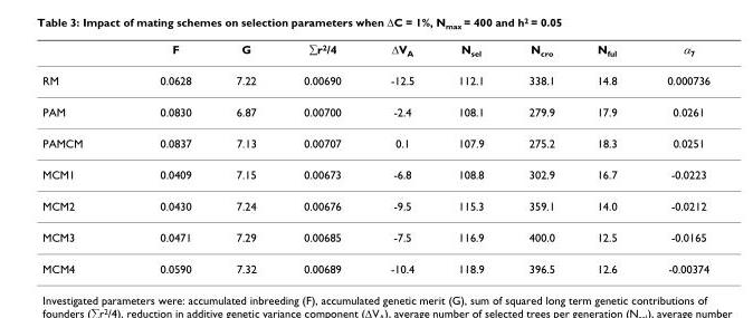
<table><thead><tr><td></td><td>F</td><td>G</td><td>∑r<sup>2</sup>/4</td><td>ΔV<sub>A</sub></td><td>N<sub>sel</sub></td><td>N<sub>cro</sub></td><td>N<sub>ful</sub></td><td>α<sub>7</sub></td></tr></thead><tbody><tr><td>RM</td><td>0.0628</td><td>7.22</td><td>0.00690</td><td>-12.5</td><td>112.1</td><td>338.1</td><td>14.8</td><td>0.000736</td></tr><tr><td>PAM</td><td>0.0830</td><td>6.87</td><td>0.00700</td><td>-2.4</td><td>108.1</td><td>279.9</td><td>17.9</td><td>0.0261</td></tr><tr><td>PAMCM</td><td>0.0837</td><td>7.13</td><td>0.00707</td><td>0.1</td><td>107.9</td><td>275.2</td><td>18.3</td><td>0.0251</td></tr><tr><td>MCM1</td><td>0.0409</td><td>7.15</td><td>0.00673</td><td>-6.8</td><td>108.8</td><td>302.9</td><td>16.7</td><td>-0.0223</td></tr><tr><td>MCM2</td><td>0.0430</td><td>7.24</td><td>0.00676</td><td>-9.5</td><td>115.3</td><td>359.1</td><td>14.0</td><td>-0.0212</td></tr><tr><td>MCM3</td><td>0.0471</td><td>7.29</td><td>0.00685</td><td>-7.5</td><td>116.9</td><td>400.0</td><td>12.5</td><td>-0.0165</td></tr><tr><td>MCM4</td><td>0.0590</td><td>7.32</td><td>0.00689</td><td>-10.4</td><td>118.9</td><td>396.5</td><td>12.6</td><td>-0.00374</td></tr></tbody></table>